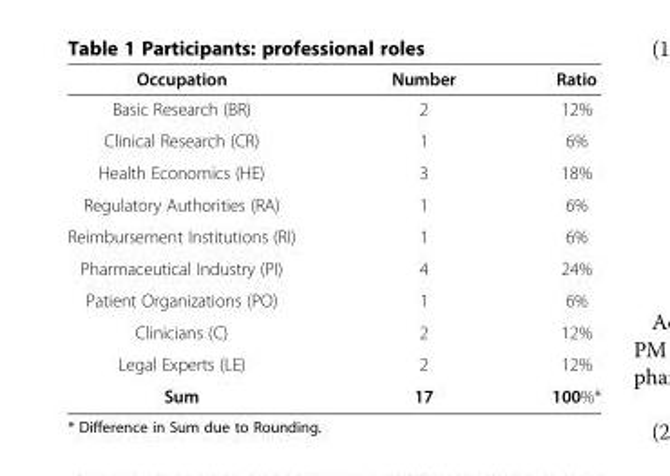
<table><thead><tr><td>Occupation</td><td>Number</td><td>Ratio</td></tr></thead><tbody><tr><td>Basic Research (BR)</td><td>2</td><td>12%</td></tr><tr><td>Clinical Research (CR)</td><td>1</td><td>6%</td></tr><tr><td>Health Economics (HE)</td><td>3</td><td>18%</td></tr><tr><td>Regulatory Authorities (RA)</td><td>1</td><td>6%</td></tr><tr><td>Reimbursement Institutions (RI)</td><td>1</td><td>6%</td></tr><tr><td>Pharmaceutical Industry (PI)</td><td>4</td><td>24%</td></tr><tr><td>Patient Organizations (PO)</td><td>1</td><td>6%</td></tr><tr><td>Clinicians (C)</td><td>2</td><td>12%</td></tr><tr><td>Legal Experts (LE)</td><td>2</td><td>12%</td></tr><tr><td>Sum</td><td>17</td><td>100%*</td></tr></tbody></table>